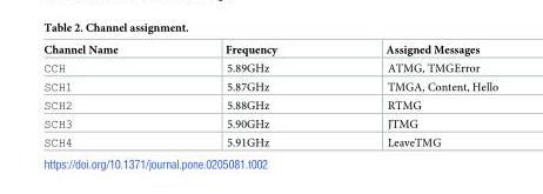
<table><thead><tr><td>Channel Name</td><td>Frequency</td><td>Assigned Messages</td></tr></thead><tbody><tr><td>CCH</td><td>5.89GHz</td><td>ATMG, TMGError</td></tr><tr><td>SCH1</td><td>5.87GHz</td><td>TMGA, Content, Hello</td></tr><tr><td>SCH2</td><td>5.88GHz</td><td>RTMG</td></tr><tr><td>SCH3</td><td>5.90GHz</td><td>JTMG</td></tr><tr><td>SCH4</td><td>5.91GHz</td><td>LeaveTMG</td></tr></tbody></table>